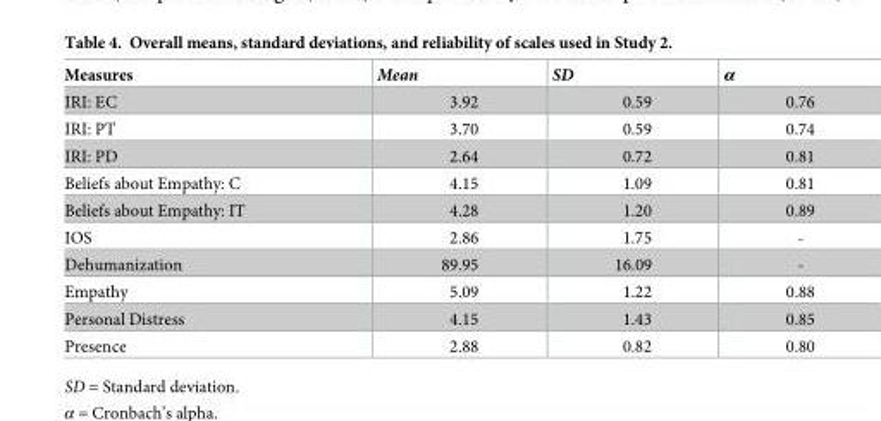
<table><thead><tr><td>Measures</td><td>Mean</td><td>SD</td><td>α</td></tr></thead><tbody><tr><td>IRI: EC</td><td>3.92</td><td>0.59</td><td>0.76</td></tr><tr><td>IRI: PT</td><td>3.70</td><td>0.59</td><td>0.74</td></tr><tr><td>IRI: PD</td><td>2.64</td><td>0.72</td><td>0.81</td></tr><tr><td>Beliefs about Empathy: C</td><td>4.15</td><td>1.09</td><td>0.81</td></tr><tr><td>Beliefs about Empathy: IT</td><td>4.28</td><td>1.20</td><td>0.89</td></tr><tr><td>IOS</td><td>2.86</td><td>1.75</td><td>-</td></tr><tr><td>Dehumanization</td><td>89.95</td><td>16.09</td><td>-</td></tr><tr><td>Empathy</td><td>5.09</td><td>1.22</td><td>0.88</td></tr><tr><td>Personal Distress</td><td>4.15</td><td>1.43</td><td>0.85</td></tr><tr><td>Presence</td><td>2.88</td><td>0.82</td><td>0.80</td></tr></tbody></table>